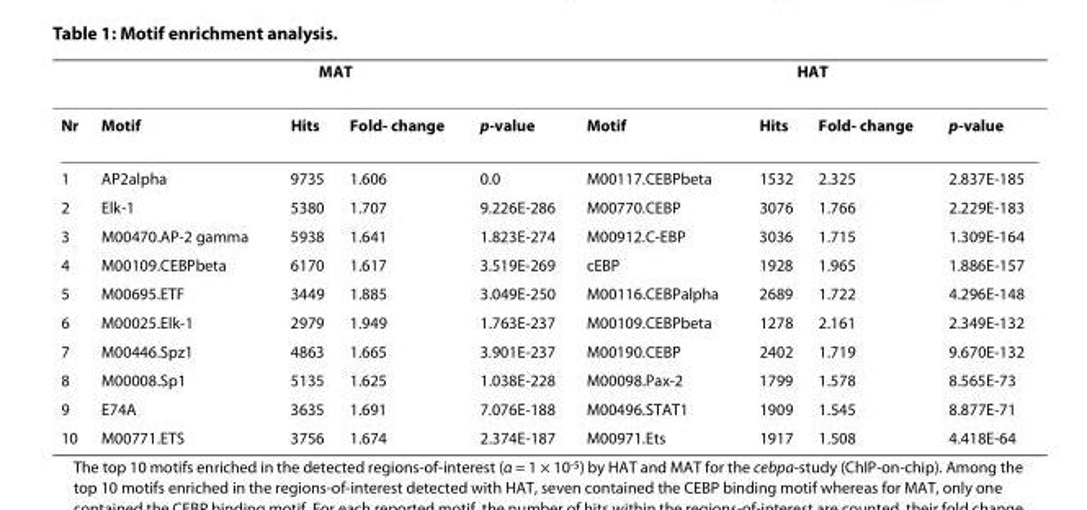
<table><thead><tr><td rowspan="2">Nr</td><td colspan="4">MAT</td><td colspan="4">HAT</td></tr><tr><td>Motif</td><td>Hits</td><td>Fold- change</td><td>p-value</td><td>Motif</td><td>Hits</td><td>Fold- change</td><td>p-value</td></tr></thead><tbody><tr><td>1</td><td>AP2alpha</td><td>9735</td><td>1.606</td><td>0.0</td><td>M00117.CEBPbeta</td><td>1532</td><td>2.325</td><td>2.837E-185</td></tr><tr><td>2</td><td>Elk-1</td><td>5380</td><td>1.707</td><td>9.226E-286</td><td>M00770.CEBP</td><td>3076</td><td>1.766</td><td>2.229E-183</td></tr><tr><td>3</td><td>M00470.AP-2 gamma</td><td>5938</td><td>1.641</td><td>1.823E-274</td><td>M00912.C-EBP</td><td>3036</td><td>1.715</td><td>1.309E-164</td></tr><tr><td>4</td><td>M00109.CEBPbeta</td><td>6170</td><td>1.617</td><td>3.519E-269</td><td>cEBP</td><td>1928</td><td>1.965</td><td>1.886E-157</td></tr><tr><td>5</td><td>M00695.ETF</td><td>3449</td><td>1.885</td><td>3.049E-250</td><td>M00116.CEBPalpha</td><td>2689</td><td>1.722</td><td>4.296E-148</td></tr><tr><td>6</td><td>M00025.Elk-1</td><td>2979</td><td>1.949</td><td>1.763E-237</td><td>M00109.CEBPbeta</td><td>1278</td><td>2.161</td><td>2.349E-132</td></tr><tr><td>7</td><td>M00446.Spz1</td><td>4863</td><td>1.665</td><td>3.901E-237</td><td>M00190.CEBP</td><td>2402</td><td>1.719</td><td>9.670E-132</td></tr><tr><td>8</td><td>M00008.Sp1</td><td>5135</td><td>1.625</td><td>1.038E-228</td><td>M00098.Pax-2</td><td>1799</td><td>1.578</td><td>8.565E-73</td></tr><tr><td>9</td><td>E74A</td><td>3635</td><td>1.691</td><td>7.076E-188</td><td>M00496.STAT1</td><td>1909</td><td>1.545</td><td>8.877E-71</td></tr><tr><td>10</td><td>M00771.ETS</td><td>3756</td><td>1.674</td><td>2.374E-187</td><td>M00971.Ets</td><td>1917</td><td>1.508</td><td>4.418E-64</td></tr></tbody></table>